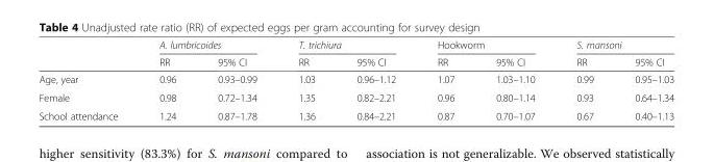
<table><thead><tr><td rowspan="2"></td><td colspan="2">A. lumbricoides</td><td colspan="2">T. trichiura</td><td colspan="2">Hookworm</td><td colspan="2">S. mansoni</td></tr><tr><td>RR</td><td>95% CI</td><td>RR</td><td>95% CI</td><td>RR</td><td>95% CI</td><td>RR</td><td>95% CI</td></tr></thead><tbody><tr><td>Age, year</td><td>0.96</td><td>0.93–0.99</td><td>1.03</td><td>0.96–1.12</td><td>1.07</td><td>1.03–1.10</td><td>0.99</td><td>0.95–1.03</td></tr><tr><td>Female</td><td>0.98</td><td>0.72–1.34</td><td>1.35</td><td>0.82–2.21</td><td>0.96</td><td>0.80–1.14</td><td>0.93</td><td>0.64–1.34</td></tr><tr><td>School attendance</td><td>1.24</td><td>0.87–1.78</td><td>1.36</td><td>0.84–2.21</td><td>0.87</td><td>0.70–1.07</td><td>0.67</td><td>0.40–1.13</td></tr></tbody></table>